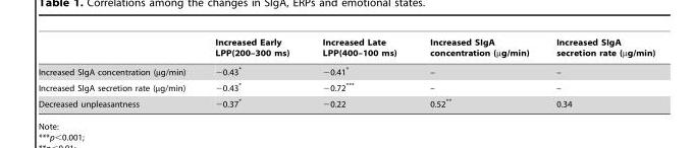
<table><thead><tr><td></td><td>Increased Early LPP(200–300 ms)</td><td>Increased Late LPP(400–100 ms)</td><td>Increased SIgA concentration (µg/min)</td><td>Increased SIgA secretion rate (µg/min)</td></tr></thead><tbody><tr><td>Increased SIgA concentration (µg/min)</td><td>−0.43*</td><td>−0.41*</td><td>–</td><td>–</td></tr><tr><td>Increased SIgA secretion rate (µg/min)</td><td>−0.43*</td><td>−0.72***</td><td>–</td><td>–</td></tr><tr><td>Decreased unpleasantness</td><td>−0.37*</td><td>−0.22</td><td>0.52**</td><td>0.34</td></tr></tbody></table>